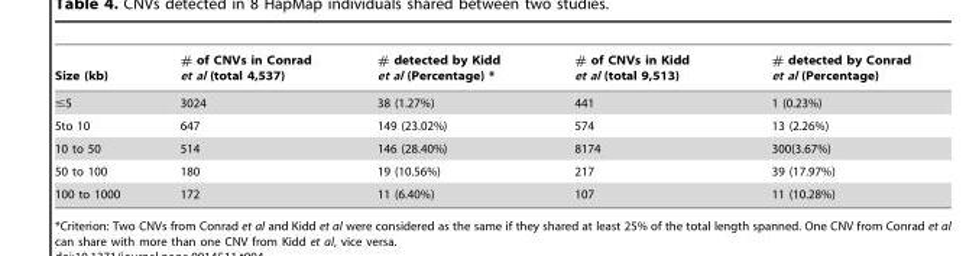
<table><thead><tr><td>Size (kb)</td><td># of CNVs in Conrad et al (total 4,537)</td><td># detected by Kidd et al (Percentage) *</td><td># of CNVs in Kidd et al (total 9,513)</td><td># detected by Conrad et al (Percentage)</td></tr></thead><tbody><tr><td>≤5</td><td>3024</td><td>38 (1.27%)</td><td>441</td><td>1 (0.23%)</td></tr><tr><td>5to 10</td><td>647</td><td>149 (23.02%)</td><td>574</td><td>13 (2.26%)</td></tr><tr><td>10 to 50</td><td>514</td><td>146 (28.40%)</td><td>8174</td><td>300(3.67%)</td></tr><tr><td>50 to 100</td><td>180</td><td>19 (10.56%)</td><td>217</td><td>39 (17.97%)</td></tr><tr><td>100 to 1000</td><td>172</td><td>11 (6.40%)</td><td>107</td><td>11 (10.28%)</td></tr></tbody></table>